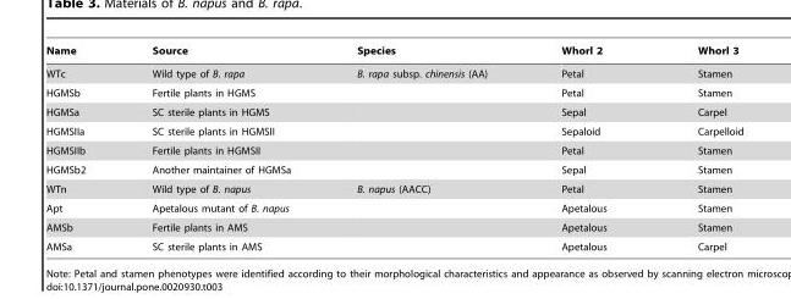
<table><thead><tr><td>Name</td><td>Source</td><td>Species</td><td>Whorl 2</td><td>Whorl 3</td></tr></thead><tbody><tr><td>WTc</td><td>Wild type of B. rapa</td><td>B. rapa subsp. chinensis (AA)</td><td>Petal</td><td>Stamen</td></tr><tr><td>HGMSb</td><td>Fertile plants in HGMS</td><td></td><td>Petal</td><td>Stamen</td></tr><tr><td>HGMSa</td><td>SC sterile plants in HGMS</td><td></td><td>Sepal</td><td>Carpel</td></tr><tr><td>HGMSIIa</td><td>SC sterile plants in HGMSII</td><td></td><td>Sepaloid</td><td>Carpelloid</td></tr><tr><td>HGMSIIb</td><td>Fertile plants in HGMSII</td><td></td><td>Petal</td><td>Stamen</td></tr><tr><td>HGMSb2</td><td>Another maintainer of HGMSa</td><td></td><td>Sepal</td><td>Stamen</td></tr><tr><td>WTn</td><td>Wild type of B. napus</td><td>B. napus (AACC)</td><td>Petal</td><td>Stamen</td></tr><tr><td>Apt</td><td>Apetalous mutant of B. napus</td><td></td><td>Apetalous</td><td>Stamen</td></tr><tr><td>AMSb</td><td>Fertile plants in AMS</td><td></td><td>Apetalous</td><td>Stamen</td></tr><tr><td>AMSa</td><td>SC sterile plants in AMS</td><td></td><td>Apetalous</td><td>Carpel</td></tr></tbody></table>